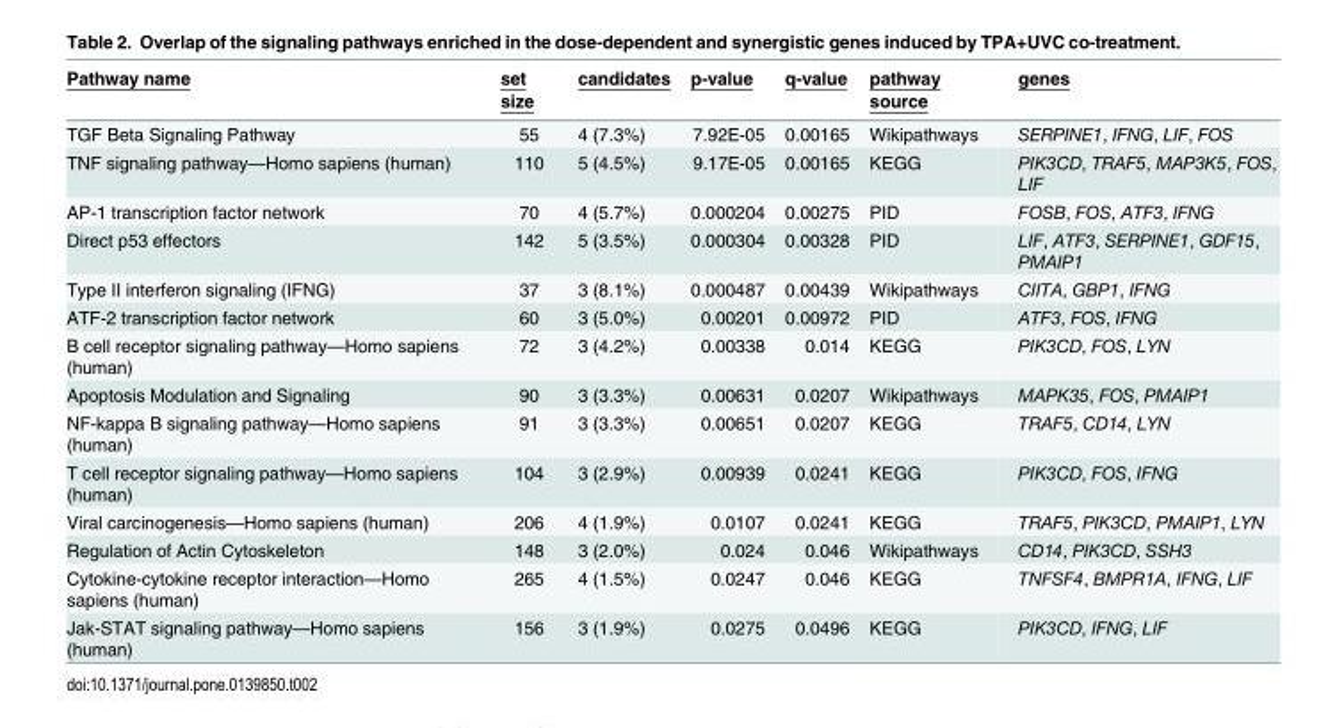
<table><thead><tr><td>Pathway name</td><td>set size</td><td>candidates</td><td>p-value</td><td>q-value</td><td>pathway source</td><td>genes</td></tr></thead><tbody><tr><td>TGF Beta Signaling Pathway</td><td>55</td><td>4 (7.3%)</td><td>7.92E-05</td><td>0.00165</td><td>Wikipathways</td><td>SERPINE1, IFNG, LIF, FOS</td></tr><tr><td>TNF signaling pathway—Homo sapiens (human)</td><td>110</td><td>5 (4.5%)</td><td>9.17E-05</td><td>0.00165</td><td>KEGG</td><td>PIK3CD, TRAF5, MAP3K5, FOS, LIF</td></tr><tr><td>AP-1 transcription factor network</td><td>70</td><td>4 (5.7%)</td><td>0.000204</td><td>0.00275</td><td>PID</td><td>FOSB, FOS, ATF3, IFNG</td></tr><tr><td>Direct p53 effectors</td><td>142</td><td>5 (3.5%)</td><td>0.000304</td><td>0.00328</td><td>PID</td><td>LIF, ATF3, SERPINE1, GDF15, PMAIP1</td></tr><tr><td>Type II interferon signaling (IFNG)</td><td>37</td><td>3 (8.1%)</td><td>0.000487</td><td>0.00439</td><td>Wikipathways</td><td>CIITA, GBP1, IFNG</td></tr><tr><td>ATF-2 transcription factor network</td><td>60</td><td>3 (5.0%)</td><td>0.00201</td><td>0.00972</td><td>PID</td><td>ATF3, FOS, IFNG</td></tr><tr><td>B cell receptor signaling pathway—Homo sapiens (human)</td><td>72</td><td>3 (4.2%)</td><td>0.00338</td><td>0.014</td><td>KEGG</td><td>PIK3CD, FOS, LYN</td></tr><tr><td>Apoptosis Modulation and Signaling</td><td>90</td><td>3 (3.3%)</td><td>0.00631</td><td>0.0207</td><td>Wikipathways</td><td>MAPK35, FOS, PMAIP1</td></tr><tr><td>NF-kappa B signaling pathway—Homo sapiens (human)</td><td>91</td><td>3 (3.3%)</td><td>0.00651</td><td>0.0207</td><td>KEGG</td><td>TRAF5, CD14, LYN</td></tr><tr><td>T cell receptor signaling pathway—Homo sapiens (human)</td><td>104</td><td>3 (2.9%)</td><td>0.00939</td><td>0.0241</td><td>KEGG</td><td>PIK3CD, FOS, IFNG</td></tr><tr><td>Viral carcinogenesis—Homo sapiens (human)</td><td>206</td><td>4 (1.9%)</td><td>0.0107</td><td>0.0241</td><td>KEGG</td><td>TRAF5, PIK3CD, PMAIP1, LYN</td></tr><tr><td>Regulation of Actin Cytoskeleton</td><td>148</td><td>3 (2.0%)</td><td>0.024</td><td>0.046</td><td>Wikipathways</td><td>CD14, PIK3CD, SSH3</td></tr><tr><td>Cytokine-cytokine receptor interaction—Homo sapiens (human)</td><td>265</td><td>4 (1.5%)</td><td>0.0247</td><td>0.046</td><td>KEGG</td><td>TNFSF4, BMPR1A, IFNG, LIF</td></tr><tr><td>Jak-STAT signaling pathway—Homo sapiens (human)</td><td>156</td><td>3 (1.9%)</td><td>0.0275</td><td>0.0496</td><td>KEGG</td><td>PIK3CD, IFNG, LIF</td></tr></tbody></table>